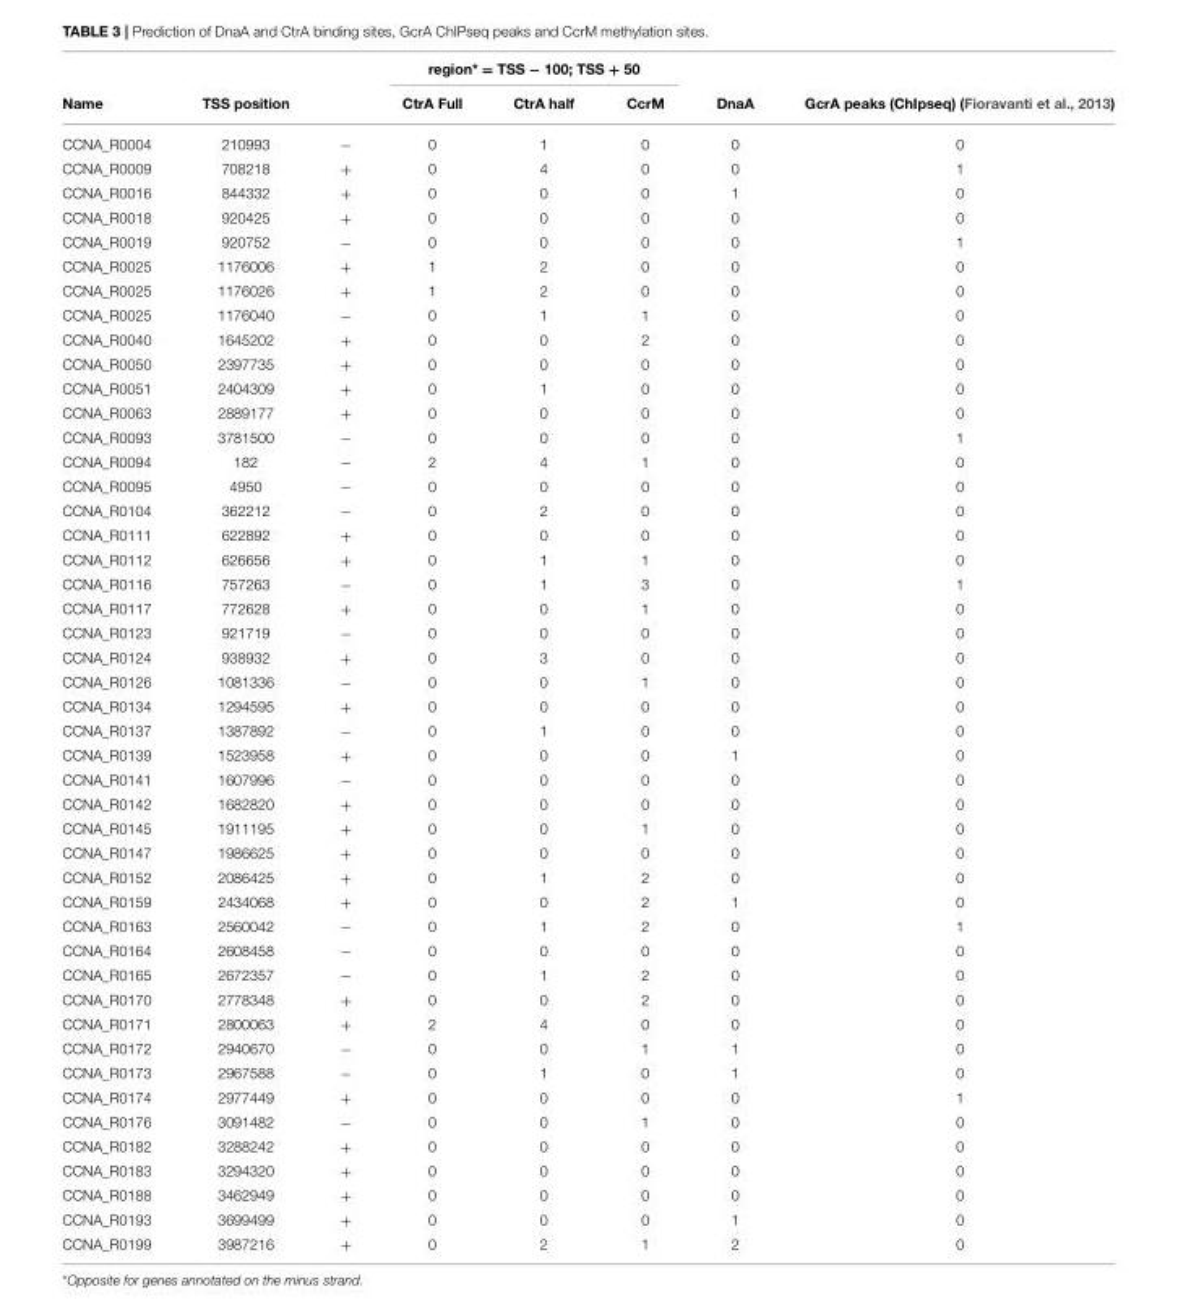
<table><thead><tr><td rowspan="2">Name</td><td rowspan="2">TSS position</td><td rowspan="2"></td><td colspan="3">region* = TSS − 100; TSS + 50</td><td rowspan="2">DnaA</td><td rowspan="2">GcrA peaks (ChIpseq) (Fioravanti et al., 2013)</td></tr><tr><td>CtrA Full</td><td>CtrA half</td><td>CcrM</td></tr></thead><tbody><tr><td>CCNA_R0004</td><td>210993</td><td>−</td><td>0</td><td>1</td><td>0</td><td>0</td><td>0</td></tr><tr><td>CCNA_R0009</td><td>708218</td><td>+</td><td>0</td><td>4</td><td>0</td><td>0</td><td>1</td></tr><tr><td>CCNA_R0016</td><td>844332</td><td>+</td><td>0</td><td>0</td><td>0</td><td>1</td><td>0</td></tr><tr><td>CCNA_R0018</td><td>920425</td><td>+</td><td>0</td><td>0</td><td>0</td><td>0</td><td>0</td></tr><tr><td>CCNA_R0019</td><td>920752</td><td>−</td><td>0</td><td>0</td><td>0</td><td>0</td><td>1</td></tr><tr><td>CCNA_R0025</td><td>1176006</td><td>+</td><td>1</td><td>2</td><td>0</td><td>0</td><td>0</td></tr><tr><td>CCNA_R0025</td><td>1176026</td><td>+</td><td>1</td><td>2</td><td>0</td><td>0</td><td>0</td></tr><tr><td>CCNA_R0025</td><td>1176040</td><td>−</td><td>0</td><td>1</td><td>1</td><td>0</td><td>0</td></tr><tr><td>CCNA_R0040</td><td>1645202</td><td>+</td><td>0</td><td>0</td><td>2</td><td>0</td><td>0</td></tr><tr><td>CCNA_R0050</td><td>2397735</td><td>+</td><td>0</td><td>0</td><td>0</td><td>0</td><td>0</td></tr><tr><td>CCNA_R0051</td><td>2404309</td><td>+</td><td>0</td><td>1</td><td>0</td><td>0</td><td>0</td></tr><tr><td>CCNA_R0063</td><td>2889177</td><td>+</td><td>0</td><td>0</td><td>0</td><td>0</td><td>0</td></tr><tr><td>CCNA_R0093</td><td>3781500</td><td>−</td><td>0</td><td>0</td><td>0</td><td>0</td><td>1</td></tr><tr><td>CCNA_R0094</td><td>182</td><td>−</td><td>2</td><td>4</td><td>1</td><td>0</td><td>0</td></tr><tr><td>CCNA_R0095</td><td>4950</td><td>−</td><td>0</td><td>0</td><td>0</td><td>0</td><td>0</td></tr><tr><td>CCNA_R0104</td><td>362212</td><td>−</td><td>0</td><td>2</td><td>0</td><td>0</td><td>0</td></tr><tr><td>CCNA_R0111</td><td>622892</td><td>+</td><td>0</td><td>0</td><td>0</td><td>0</td><td>0</td></tr><tr><td>CCNA_R0112</td><td>626656</td><td>+</td><td>0</td><td>1</td><td>1</td><td>0</td><td>0</td></tr><tr><td>CCNA_R0116</td><td>757263</td><td>−</td><td>0</td><td>1</td><td>3</td><td>0</td><td>1</td></tr><tr><td>CCNA_R0117</td><td>772628</td><td>+</td><td>0</td><td>0</td><td>1</td><td>0</td><td>0</td></tr><tr><td>CCNA_R0123</td><td>921719</td><td>−</td><td>0</td><td>0</td><td>0</td><td>0</td><td>0</td></tr><tr><td>CCNA_R0124</td><td>938932</td><td>+</td><td>0</td><td>3</td><td>0</td><td>0</td><td>0</td></tr><tr><td>CCNA_R0126</td><td>1081336</td><td>−</td><td>0</td><td>0</td><td>1</td><td>0</td><td>0</td></tr><tr><td>CCNA_R0134</td><td>1294595</td><td>+</td><td>0</td><td>0</td><td>0</td><td>0</td><td>0</td></tr><tr><td>CCNA_R0137</td><td>1387892</td><td>−</td><td>0</td><td>1</td><td>0</td><td>0</td><td>0</td></tr><tr><td>CCNA_R0139</td><td>1523958</td><td>+</td><td>0</td><td>0</td><td>0</td><td>1</td><td>0</td></tr><tr><td>CCNA_R0141</td><td>1607996</td><td>−</td><td>0</td><td>0</td><td>0</td><td>0</td><td>0</td></tr><tr><td>CCNA_R0142</td><td>1682820</td><td>+</td><td>0</td><td>0</td><td>0</td><td>0</td><td>0</td></tr><tr><td>CCNA_R0145</td><td>1911195</td><td>+</td><td>0</td><td>0</td><td>1</td><td>0</td><td>0</td></tr><tr><td>CCNA_R0147</td><td>1986625</td><td>+</td><td>0</td><td>0</td><td>0</td><td>0</td><td>0</td></tr><tr><td>CCNA_R0152</td><td>2086425</td><td>+</td><td>0</td><td>1</td><td>2</td><td>0</td><td>0</td></tr><tr><td>CCNA_R0159</td><td>2434068</td><td>+</td><td>0</td><td>0</td><td>2</td><td>1</td><td>0</td></tr><tr><td>CCNA_R0163</td><td>2560042</td><td>−</td><td>0</td><td>1</td><td>2</td><td>0</td><td>1</td></tr><tr><td>CCNA_R0164</td><td>2608458</td><td>−</td><td>0</td><td>0</td><td>0</td><td>0</td><td>0</td></tr><tr><td>CCNA_R0165</td><td>2672357</td><td>−</td><td>0</td><td>1</td><td>2</td><td>0</td><td>0</td></tr><tr><td>CCNA_R0170</td><td>2778348</td><td>+</td><td>0</td><td>0</td><td>2</td><td>0</td><td>0</td></tr><tr><td>CCNA_R0171</td><td>2800063</td><td>+</td><td>2</td><td>4</td><td>0</td><td>0</td><td>0</td></tr><tr><td>CCNA_R0172</td><td>2940670</td><td>−</td><td>0</td><td>0</td><td>1</td><td>1</td><td>0</td></tr><tr><td>CCNA_R0173</td><td>2967588</td><td>−</td><td>0</td><td>1</td><td>0</td><td>1</td><td>0</td></tr><tr><td>CCNA_R0174</td><td>2977449</td><td>+</td><td>0</td><td>0</td><td>0</td><td>0</td><td>1</td></tr><tr><td>CCNA_R0176</td><td>3091482</td><td>−</td><td>0</td><td>0</td><td>1</td><td>0</td><td>0</td></tr><tr><td>CCNA_R0182</td><td>3288242</td><td>+</td><td>0</td><td>0</td><td>0</td><td>0</td><td>0</td></tr><tr><td>CCNA_R0183</td><td>3294320</td><td>+</td><td>0</td><td>0</td><td>0</td><td>0</td><td>0</td></tr><tr><td>CCNA_R0188</td><td>3462949</td><td>+</td><td>0</td><td>0</td><td>0</td><td>0</td><td>0</td></tr><tr><td>CCNA_R0193</td><td>3699499</td><td>+</td><td>0</td><td>0</td><td>0</td><td>1</td><td>0</td></tr><tr><td>CCNA_R0199</td><td>3987216</td><td>+</td><td>0</td><td>2</td><td>1</td><td>2</td><td>0</td></tr></tbody></table>